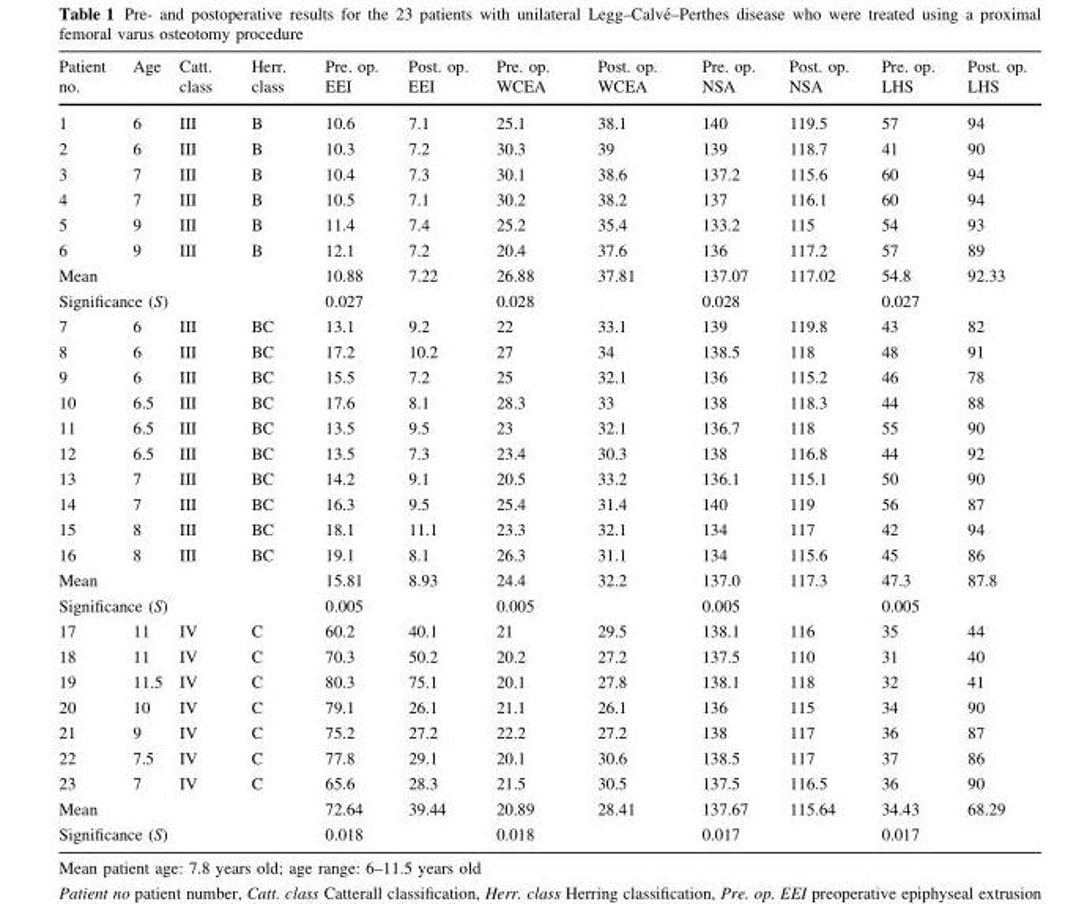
<table><thead><tr><td>Patient no.</td><td>Age</td><td>Catt. class</td><td>Herr. class</td><td>Pre. op. EEI</td><td>Post. op. EEI</td><td>Pre. op. WCEA</td><td>Post. op. WCEA</td><td>Pre. op. NSA</td><td>Post. op. NSA</td><td>Pre. op. LHS</td><td>Post. op. LHS</td></tr></thead><tbody><tr><td>1</td><td>6</td><td>III</td><td>B</td><td>10.6</td><td>7.1</td><td>25.1</td><td>38.1</td><td>140</td><td>119.5</td><td>57</td><td>94</td></tr><tr><td>2</td><td>6</td><td>III</td><td>B</td><td>10.3</td><td>7.2</td><td>30.3</td><td>39</td><td>139</td><td>118.7</td><td>41</td><td>90</td></tr><tr><td>3</td><td>7</td><td>III</td><td>B</td><td>10.4</td><td>7.3</td><td>30.1</td><td>38.6</td><td>137.2</td><td>115.6</td><td>60</td><td>94</td></tr><tr><td>4</td><td>7</td><td>III</td><td>B</td><td>10.5</td><td>7.1</td><td>30.2</td><td>38.2</td><td>137</td><td>116.1</td><td>60</td><td>94</td></tr><tr><td>5</td><td>9</td><td>III</td><td>B</td><td>11.4</td><td>7.4</td><td>25.2</td><td>35.4</td><td>133.2</td><td>115</td><td>54</td><td>93</td></tr><tr><td>6</td><td>9</td><td>III</td><td>B</td><td>12.1</td><td>7.2</td><td>20.4</td><td>37.6</td><td>136</td><td>117.2</td><td>57</td><td>89</td></tr><tr><td colspan="4">Mean</td><td>10.88</td><td>7.22</td><td>26.88</td><td>37.81</td><td>137.07</td><td>117.02</td><td>54.8</td><td>92.33</td></tr><tr><td colspan="4">Significance (S)</td><td colspan="2">0.027</td><td colspan="2">0.028</td><td colspan="2">0.028</td><td colspan="2">0.027</td></tr><tr><td>7</td><td>6</td><td>III</td><td>BC</td><td>13.1</td><td>9.2</td><td>22</td><td>33.1</td><td>139</td><td>119.8</td><td>43</td><td>82</td></tr><tr><td>8</td><td>6</td><td>III</td><td>BC</td><td>17.2</td><td>10.2</td><td>27</td><td>34</td><td>138.5</td><td>118</td><td>48</td><td>91</td></tr><tr><td>9</td><td>6</td><td>III</td><td>BC</td><td>15.5</td><td>7.2</td><td>25</td><td>32.1</td><td>136</td><td>115.2</td><td>46</td><td>78</td></tr><tr><td>10</td><td>6.5</td><td>III</td><td>BC</td><td>17.6</td><td>8.1</td><td>28.3</td><td>33</td><td>138</td><td>118.3</td><td>44</td><td>88</td></tr><tr><td>11</td><td>6.5</td><td>III</td><td>BC</td><td>13.5</td><td>9.5</td><td>23</td><td>32.1</td><td>136.7</td><td>118</td><td>55</td><td>90</td></tr><tr><td>12</td><td>6.5</td><td>III</td><td>BC</td><td>13.5</td><td>7.3</td><td>23.4</td><td>30.3</td><td>138</td><td>116.8</td><td>44</td><td>92</td></tr><tr><td>13</td><td>7</td><td>III</td><td>BC</td><td>14.2</td><td>9.1</td><td>20.5</td><td>33.2</td><td>136.1</td><td>115.1</td><td>50</td><td>90</td></tr><tr><td>14</td><td>7</td><td>III</td><td>BC</td><td>16.3</td><td>9.5</td><td>25.4</td><td>31.4</td><td>140</td><td>119</td><td>56</td><td>87</td></tr><tr><td>15</td><td>8</td><td>III</td><td>BC</td><td>18.1</td><td>11.1</td><td>23.3</td><td>32.1</td><td>134</td><td>117</td><td>42</td><td>94</td></tr><tr><td>16</td><td>8</td><td>III</td><td>BC</td><td>19.1</td><td>8.1</td><td>26.3</td><td>31.1</td><td>134</td><td>115.6</td><td>45</td><td>86</td></tr><tr><td colspan="4">Mean</td><td>15.81</td><td>8.93</td><td>24.4</td><td>32.2</td><td>137.0</td><td>117.3</td><td>47.3</td><td>87.8</td></tr><tr><td colspan="4">Significance (S)</td><td colspan="2">0.005</td><td colspan="2">0.005</td><td colspan="2">0.005</td><td colspan="2">0.005</td></tr><tr><td>17</td><td>11</td><td>IV</td><td>C</td><td>60.2</td><td>40.1</td><td>21</td><td>29.5</td><td>138.1</td><td>116</td><td>35</td><td>44</td></tr><tr><td>18</td><td>11</td><td>IV</td><td>C</td><td>70.3</td><td>50.2</td><td>20.2</td><td>27.2</td><td>137.5</td><td>110</td><td>31</td><td>40</td></tr><tr><td>19</td><td>11.5</td><td>IV</td><td>C</td><td>80.3</td><td>75.1</td><td>20.1</td><td>27.8</td><td>138.1</td><td>118</td><td>32</td><td>41</td></tr><tr><td>20</td><td>10</td><td>IV</td><td>C</td><td>79.1</td><td>26.1</td><td>21.1</td><td>26.1</td><td>136</td><td>115</td><td>34</td><td>90</td></tr><tr><td>21</td><td>9</td><td>IV</td><td>C</td><td>75.2</td><td>27.2</td><td>22.2</td><td>27.2</td><td>138</td><td>117</td><td>36</td><td>87</td></tr><tr><td>22</td><td>7.5</td><td>IV</td><td>C</td><td>77.8</td><td>29.1</td><td>20.1</td><td>30.6</td><td>138.5</td><td>117</td><td>37</td><td>86</td></tr><tr><td>23</td><td>7</td><td>IV</td><td>C</td><td>65.6</td><td>28.3</td><td>21.5</td><td>30.5</td><td>137.5</td><td>116.5</td><td>36</td><td>90</td></tr><tr><td colspan="4">Mean</td><td>72.64</td><td>39.44</td><td>20.89</td><td>28.41</td><td>137.67</td><td>115.64</td><td>34.43</td><td>68.29</td></tr><tr><td colspan="4">Significance (S)</td><td colspan="2">0.018</td><td colspan="2">0.018</td><td colspan="2">0.017</td><td colspan="2">0.017</td></tr></tbody></table>